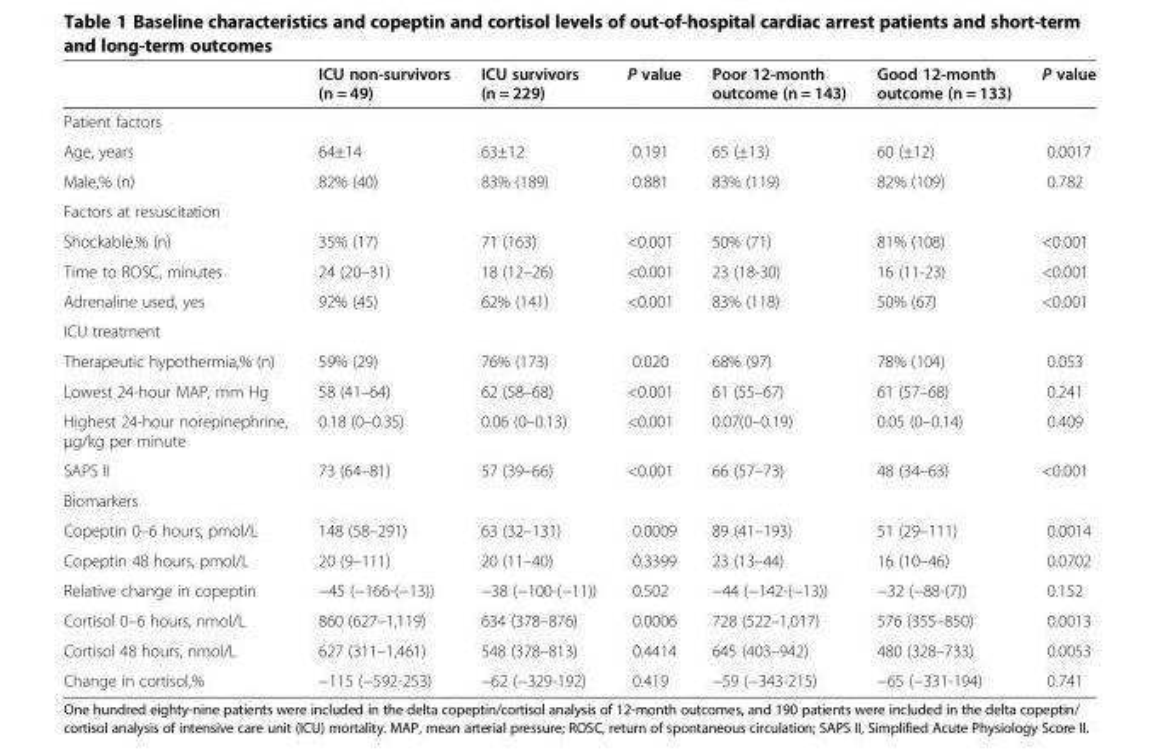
<table><thead><tr><td></td><td>ICU non-survivors (n = 49)</td><td>ICU survivors (n = 229)</td><td>P value</td><td>Poor 12-month outcome (n = 143)</td><td>Good 12-month outcome (n = 133)</td><td>P value</td></tr></thead><tbody><tr><td colspan="7">Patient factors</td></tr><tr><td>Age, years</td><td>64±14</td><td>63±12</td><td>0.191</td><td>65 (±13)</td><td>60 (±12)</td><td>0.0017</td></tr><tr><td>Male,% (n)</td><td>82% (40)</td><td>83% (189)</td><td>0.881</td><td>83% (119)</td><td>82% (109)</td><td>0.782</td></tr><tr><td colspan="7">Factors at resuscitation</td></tr><tr><td>Shockable,% (n)</td><td>35% (17)</td><td>71 (163)</td><td>&lt;0.001</td><td>50% (71)</td><td>81% (108)</td><td>&lt;0.001</td></tr><tr><td>Time to ROSC, minutes</td><td>24 (20–31)</td><td>18 (12–26)</td><td>&lt;0.001</td><td>23 (18-30)</td><td>16 (11-23)</td><td>&lt;0.001</td></tr><tr><td>Adrenaline used, yes</td><td>92% (45)</td><td>62% (141)</td><td>&lt;0.001</td><td>83% (118)</td><td>50% (67)</td><td>&lt;0.001</td></tr><tr><td colspan="7">ICU treatment</td></tr><tr><td>Therapeutic hypothermia,% (n)</td><td>59% (29)</td><td>76% (173)</td><td>0.020</td><td>68% (97)</td><td>78% (104)</td><td>0.053</td></tr><tr><td>Lowest 24-hour MAP, mm Hg</td><td>58 (41–64)</td><td>62 (58–68)</td><td>&lt;0.001</td><td>61 (55–67)</td><td>61 (57–68)</td><td>0.241</td></tr><tr><td>Highest 24-hour norepinephrine, μg/kg per minute</td><td>0.18 (0–0.35)</td><td>0.06 (0–0.13)</td><td>&lt;0.001</td><td>0.07(0–0.19)</td><td>0.05 (0–0.14)</td><td>0.409</td></tr><tr><td>SAPS II</td><td>73 (64–81)</td><td>57 (39–66)</td><td>&lt;0.001</td><td>66 (57–73)</td><td>48 (34–63)</td><td>&lt;0.001</td></tr><tr><td colspan="7">Biomarkers</td></tr><tr><td>Copeptin 0–6 hours, pmol/L</td><td>148 (58–291)</td><td>63 (32–131)</td><td>0.0009</td><td>89 (41–193)</td><td>51 (29–111)</td><td>0.0014</td></tr><tr><td>Copeptin 48 hours, pmol/L</td><td>20 (9–111)</td><td>20 (11–40)</td><td>0.3399</td><td>23 (13–44)</td><td>16 (10–46)</td><td>0.0702</td></tr><tr><td>Relative change in copeptin</td><td>−45 (−166-(−13))</td><td>−38 (−100-(−11))</td><td>0.502</td><td>−44 (−142-(−13))</td><td>−32 (−88-(7))</td><td>0.152</td></tr><tr><td>Cortisol 0–6 hours, nmol/L</td><td>860 (627–1,119)</td><td>634 (378–876)</td><td>0.0006</td><td>728 (522–1,017)</td><td>576 (355–850)</td><td>0.0013</td></tr><tr><td>Cortisol 48 hours, nmol/L</td><td>627 (311–1,461)</td><td>548 (378–813)</td><td>0.4414</td><td>645 (403–942)</td><td>480 (328–733)</td><td>0.0053</td></tr><tr><td>Change in cortisol,%</td><td>−115 (−592-253)</td><td>−62 (−329-192)</td><td>0.419</td><td>−59 (−343-215)</td><td>−65 (−331-194)</td><td>0.741</td></tr></tbody></table>